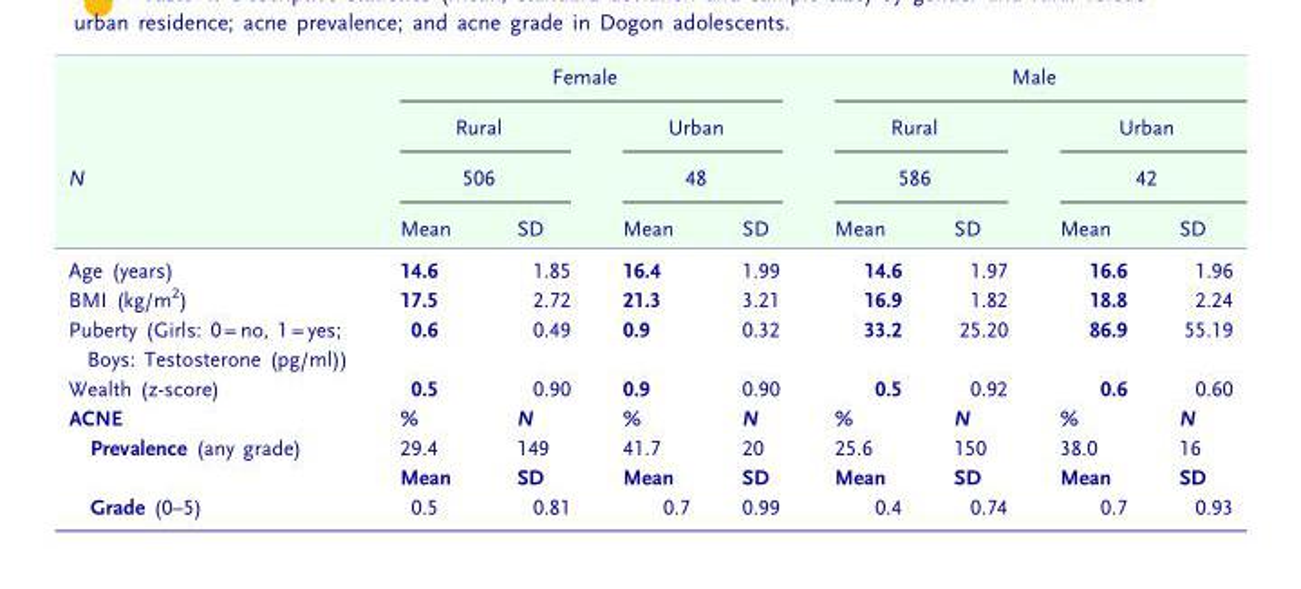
<table><thead><tr><td rowspan="4">N</td><td colspan="4">Female</td><td colspan="4">Male</td></tr><tr><td rowspan="2" colspan="2">Rural 506</td><td rowspan="2" colspan="2">Urban 48</td><td rowspan="2" colspan="2">Rural 586</td><td rowspan="2" colspan="2">Urban 42</td></tr><tr></tr><tr><td>Mean</td><td>SD</td><td>Mean</td><td>SD</td><td>Mean</td><td>SD</td><td>Mean</td><td>SD</td></tr></thead><tbody><tr><td>Age (years)</td><td>14.6</td><td>1.85</td><td>16.4</td><td>1.99</td><td>14.6</td><td>1.97</td><td>16.6</td><td>1.96</td></tr><tr><td>BMI (kg/m<sup>2</sup>)</td><td>17.5</td><td>2.72</td><td>21.3</td><td>3.21</td><td>16.9</td><td>1.82</td><td>18.8</td><td>2.24</td></tr><tr><td>Puberty (Girls: 0 = no, 1 = yes; Boys: Testosterone (pg/ml))</td><td>0.6</td><td>0.49</td><td>0.9</td><td>0.32</td><td>33.2</td><td>25.20</td><td>86.9</td><td>55.19</td></tr><tr><td>Wealth (z-score)</td><td>0.5</td><td>0.90</td><td>0.9</td><td>0.90</td><td>0.5</td><td>0.92</td><td>0.6</td><td>0.60</td></tr><tr><td>ACNE</td><td>%</td><td>N</td><td>%</td><td>N</td><td>%</td><td>N</td><td>%</td><td>N</td></tr><tr><td rowspan="2">Prevalence (any grade)</td><td>29.4</td><td>149</td><td>41.7</td><td>20</td><td>25.6</td><td>150</td><td>38.0</td><td>16</td></tr><tr><td>Mean</td><td>SD</td><td>Mean</td><td>SD</td><td>Mean</td><td>SD</td><td>Mean</td><td>SD</td></tr><tr><td>Grade (0–5)</td><td>0.5</td><td>0.81</td><td>0.7</td><td>0.99</td><td>0.4</td><td>0.74</td><td>0.7</td><td>0.93</td></tr></tbody></table>